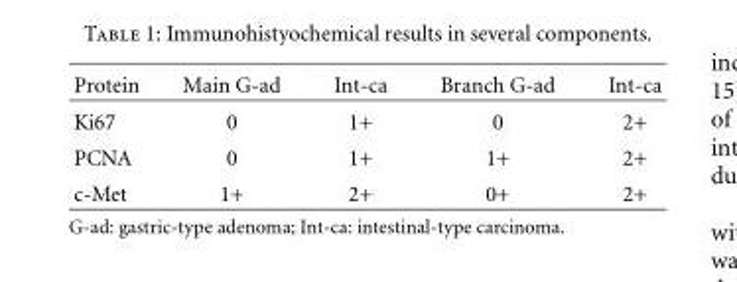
<table><thead><tr><td>Protein</td><td>Main G-ad</td><td>Int-ca</td><td>Branch G-ad</td><td>Int-ca</td></tr></thead><tbody><tr><td>Ki67</td><td>0</td><td>1+</td><td>0</td><td>2+</td></tr><tr><td>PCNA</td><td>0</td><td>1+</td><td>1+</td><td>2+</td></tr><tr><td>c-Met</td><td>1+</td><td>2+</td><td>0+</td><td>2+</td></tr></tbody></table>